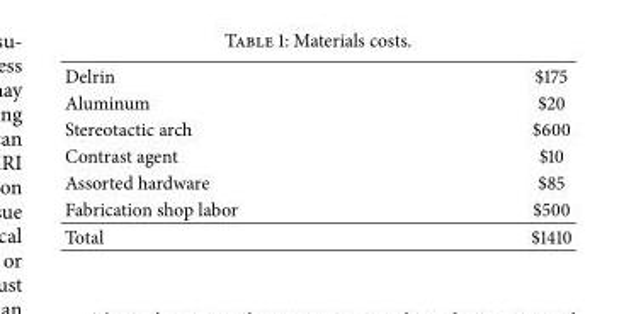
<table><tbody><tr><td>Delrin</td><td>$175</td></tr><tr><td>Aluminum</td><td>$20</td></tr><tr><td>Stereotactic arch</td><td>$600</td></tr><tr><td>Contrast agent</td><td>$10</td></tr><tr><td>Assorted hardware</td><td>$85</td></tr><tr><td>Fabrication shop labor</td><td>$500</td></tr><tr><td>Total</td><td>$1410</td></tr></tbody></table>